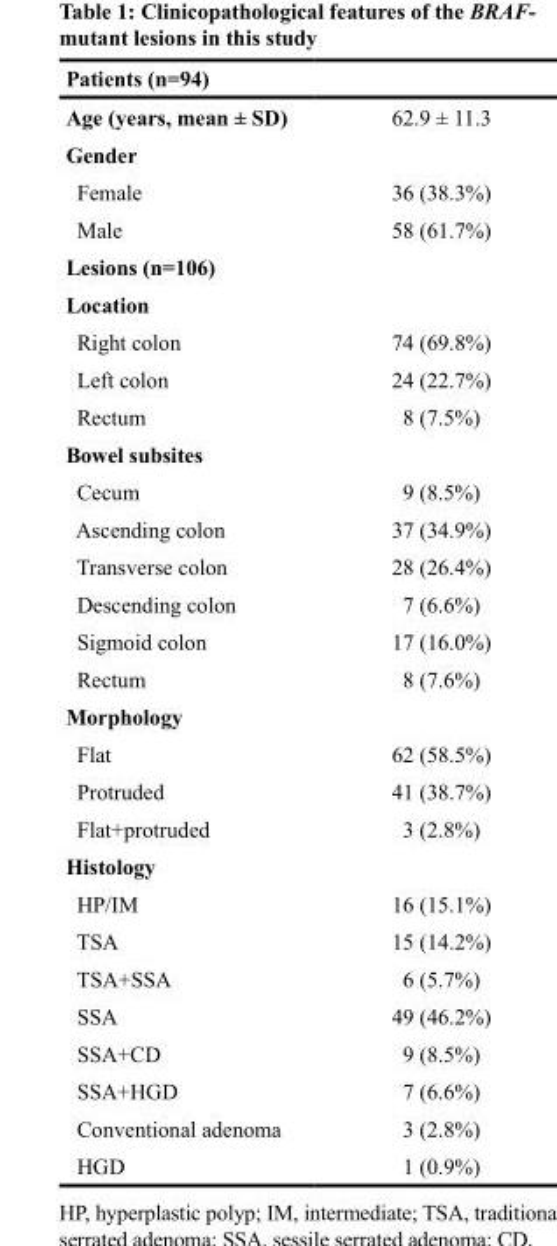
<table><thead><tr><td>Patients (n=94)</td><td></td></tr></thead><tbody><tr><td>Age (years, mean ± SD)</td><td>62.9 ± 11.3</td></tr><tr><td colspan="2">Gender</td></tr><tr><td>Female</td><td>36 (38.3%)</td></tr><tr><td>Male</td><td>58 (61.7%)</td></tr><tr><td colspan="2">Lesions (n=106)</td></tr><tr><td colspan="2">Location</td></tr><tr><td>Right colon</td><td>74 (69.8%)</td></tr><tr><td>Left colon</td><td>24 (22.7%)</td></tr><tr><td>Rectum</td><td>8 (7.5%)</td></tr><tr><td colspan="2">Bowel subsites</td></tr><tr><td>Cecum</td><td>9 (8.5%)</td></tr><tr><td>Ascending colon</td><td>37 (34.9%)</td></tr><tr><td>Transverse colon</td><td>28 (26.4%)</td></tr><tr><td>Descending colon</td><td>7 (6.6%)</td></tr><tr><td>Sigmoid colon</td><td>17 (16.0%)</td></tr><tr><td>Rectum</td><td>8 (7.6%)</td></tr><tr><td colspan="2">Morphology</td></tr><tr><td>Flat</td><td>62 (58.5%)</td></tr><tr><td>Protruded</td><td>41 (38.7%)</td></tr><tr><td>Flat+protruded</td><td>3 (2.8%)</td></tr><tr><td colspan="2">Histology</td></tr><tr><td>HP/IM</td><td>16 (15.1%)</td></tr><tr><td>TSA</td><td>15 (14.2%)</td></tr><tr><td>TSA+SSA</td><td>6 (5.7%)</td></tr><tr><td>SSA</td><td>49 (46.2%)</td></tr><tr><td>SSA+CD</td><td>9 (8.5%)</td></tr><tr><td>SSA+HGD</td><td>7 (6.6%)</td></tr><tr><td>Conventional adenoma</td><td>3 (2.8%)</td></tr><tr><td>HGD</td><td>1 (0.9%)</td></tr></tbody></table>